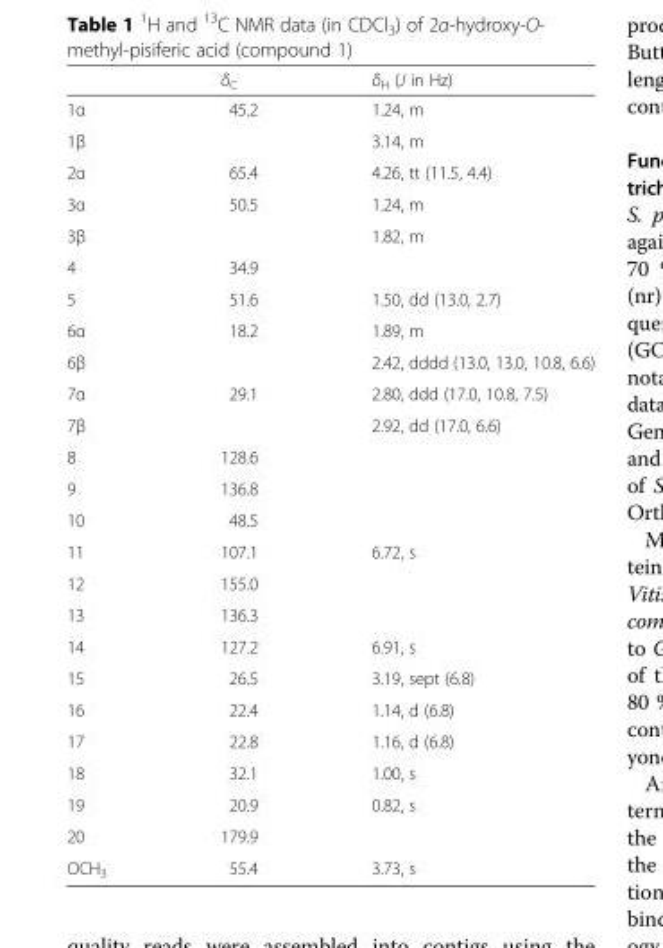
<table><thead><tr><td></td><td>δ<sub>C</sub></td><td>δ<sub>H</sub> (J in Hz)</td></tr></thead><tbody><tr><td>1α</td><td rowspan="2">45.2</td><td>1.24, m</td></tr><tr><td>1β</td><td>3.14, m</td></tr><tr><td>2α</td><td>65.4</td><td>4.26, tt (11.5, 4.4)</td></tr><tr><td>3α</td><td rowspan="2">50.5</td><td>1.24, m</td></tr><tr><td>3β</td><td>1.82, m</td></tr><tr><td>4</td><td>34.9</td><td></td></tr><tr><td>5</td><td>51.6</td><td>1.50, dd (13.0, 2.7)</td></tr><tr><td>6α</td><td rowspan="2">18.2</td><td>1.89, m</td></tr><tr><td>6β</td><td>2.42, dddd (13.0, 13.0, 10.8, 6.6)</td></tr><tr><td>7α</td><td rowspan="2">29.1</td><td>2.80, ddd (17.0, 10.8, 7.5)</td></tr><tr><td>7β</td><td>2.92, dd (17.0, 6.6)</td></tr><tr><td>8</td><td>128.6</td><td></td></tr><tr><td>9</td><td>136.8</td><td></td></tr><tr><td>10</td><td>48.5</td><td></td></tr><tr><td>11</td><td>107.1</td><td>6.72, s</td></tr><tr><td>12</td><td>155.0</td><td></td></tr><tr><td>13</td><td>136.3</td><td></td></tr><tr><td>14</td><td>127.2</td><td>6.91, s</td></tr><tr><td>15</td><td>26.5</td><td>3.19, sept (6.8)</td></tr><tr><td>16</td><td>22.4</td><td>1.14, d (6.8)</td></tr><tr><td>17</td><td>22.8</td><td>1.16, d (6.8)</td></tr><tr><td>18</td><td>32.1</td><td>1.00, s</td></tr><tr><td>19</td><td>20.9</td><td>0.82, s</td></tr><tr><td>20</td><td>179.9</td><td></td></tr><tr><td>OCH<sub>3</sub></td><td>55.4</td><td>3.73, s</td></tr></tbody></table>